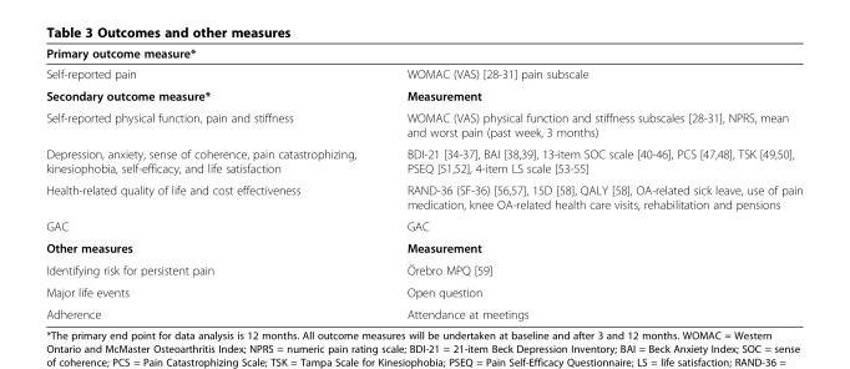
<table><thead><tr><td>Primary outcome measure*</td><td></td></tr></thead><tbody><tr><td>Self-reported pain</td><td>WOMAC (VAS) [28-31] pain subscale</td></tr><tr><td>Secondary outcome measure*</td><td>Measurement</td></tr><tr><td>Self-reported physical function, pain and stiffness</td><td>WOMAC (VAS) physical function and stiffness subscales [28-31], NPRS, mean and worst pain (past week, 3 months)</td></tr><tr><td>Depression, anxiety, sense of coherence, pain catastrophizing, kinesiophobia, self-efficacy, and life satisfaction</td><td>BDI-21 [34-37], BAI [38,39], 13-item SOC scale [40-46], PCS [47,48], TSK [49,50], PSEQ [51,52], 4-item LS scale [53-55]</td></tr><tr><td>Health-related quality of life and cost effectiveness</td><td>RAND-36 (SF-36) [56,57], 15D [58], QALY [58], OA-related sick leave, use of pain medication, knee OA-related health care visits, rehabilitation and pensions</td></tr><tr><td>GAC</td><td>GAC</td></tr><tr><td>Other measures</td><td>Measurement</td></tr><tr><td>Identifying risk for persistent pain</td><td>Örebro MPQ [59]</td></tr><tr><td>Major life events</td><td>Open question</td></tr><tr><td>Adherence</td><td>Attendance at meetings</td></tr></tbody></table>